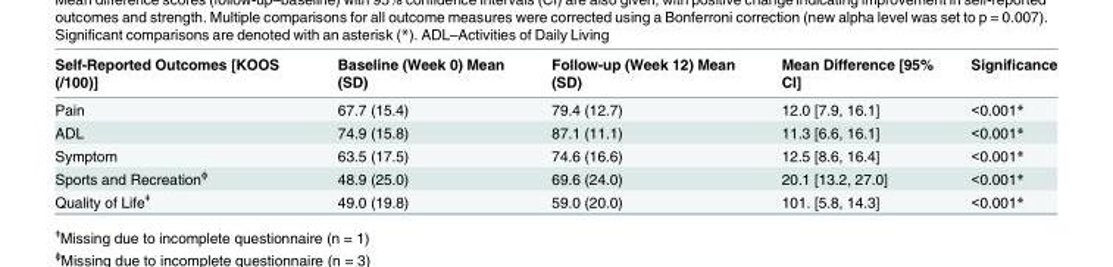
<table><thead><tr><td>Self-Reported Outcomes [KOOS (/100)]</td><td>Baseline (Week 0) Mean (SD)</td><td>Follow-up (Week 12) Mean (SD)</td><td>Mean Difference [95% CI]</td><td>Significance</td></tr></thead><tbody><tr><td>Pain</td><td>67.7 (15.4)</td><td>79.4 (12.7)</td><td>12.0 [7.9, 16.1]</td><td>&lt;0.001*</td></tr><tr><td>ADL</td><td>74.9 (15.8)</td><td>87.1 (11.1)</td><td>11.3 [6.6, 16.1]</td><td>&lt;0.001*</td></tr><tr><td>Symptom</td><td>63.5 (17.5)</td><td>74.6 (16.6)</td><td>12.5 [8.6, 16.4]</td><td>&lt;0.001*</td></tr><tr><td>Sports and Recreation<sup>ɸ</sup></td><td>48.9 (25.0)</td><td>69.6 (24.0)</td><td>20.1 [13.2, 27.0]</td><td>&lt;0.001*</td></tr><tr><td>Quality of Life<sup>ǂ</sup></td><td>49.0 (19.8)</td><td>59.0 (20.0)</td><td>101. [5.8, 14.3]</td><td>&lt;0.001*</td></tr></tbody></table>